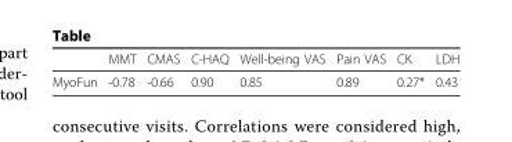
<table><thead><tr><td></td><td>MMT</td><td>CMAS</td><td>C-HAQ</td><td>Well-being VAS</td><td>Pain VAS</td><td>CK</td><td>LDH</td></tr></thead><tbody><tr><td>MyoFun</td><td>-0.78</td><td>-0.66</td><td>0.90</td><td>0.85</td><td>0.89</td><td>0.27*</td><td>0.43</td></tr></tbody></table>